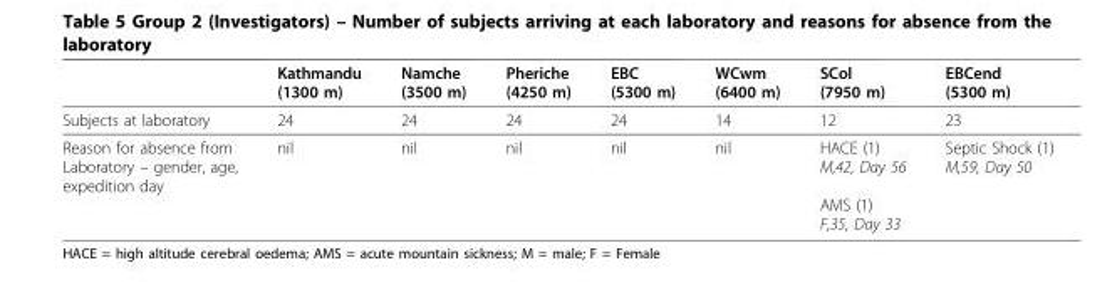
<table><thead><tr><td></td><td>Kathmandu (1300 m)</td><td>Namche (3500 m)</td><td>Pheriche (4250 m)</td><td>EBC (5300 m)</td><td>WCwm (6400 m)</td><td>SCol (7950 m)</td><td>EBCend (5300 m)</td></tr></thead><tbody><tr><td>Subjects at laboratory</td><td>24</td><td>24</td><td>24</td><td>24</td><td>14</td><td>12</td><td>23</td></tr><tr><td>Reason for absence from Laboratory – gender, age, expedition day</td><td>nil</td><td>nil</td><td>nil</td><td>nil</td><td>nil</td><td>HACE (1) M,42, Day 56 AMS (1) F,35, Day 33</td><td>Septic Shock (1) M,59, Day 50</td></tr></tbody></table>